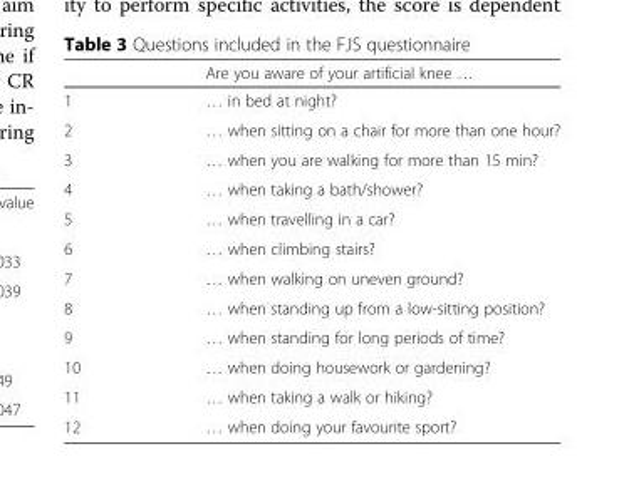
<table><thead><tr><td></td><td>Are you aware of your artificial knee …</td></tr></thead><tbody><tr><td>1</td><td>… in bed at night?</td></tr><tr><td>2</td><td>… when sitting on a chair for more than one hour?</td></tr><tr><td>3</td><td>… when you are walking for more than 15 min?</td></tr><tr><td>4</td><td>… when taking a bath/shower?</td></tr><tr><td>5</td><td>… when travelling in a car?</td></tr><tr><td>6</td><td>… when climbing stairs?</td></tr><tr><td>7</td><td>… when walking on uneven ground?</td></tr><tr><td>8</td><td>… when standing up from a low-sitting position?</td></tr><tr><td>9</td><td>… when standing for long periods of time?</td></tr><tr><td>10</td><td>… when doing housework or gardening?</td></tr><tr><td>11</td><td>… when taking a walk or hiking?</td></tr><tr><td>12</td><td>… when doing your favourite sport?</td></tr></tbody></table>